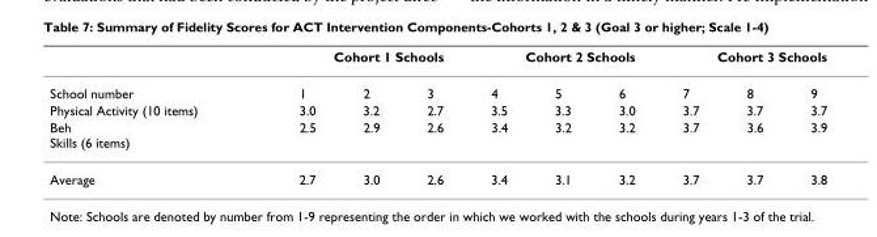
<table><thead><tr><td rowspan="2">School number</td><td colspan="3">Cohort 1 Schools</td><td colspan="3">Cohort 2 Schools</td><td colspan="3">Cohort 3 Schools</td></tr><tr><td>1</td><td>2</td><td>3</td><td>4</td><td>5</td><td>6</td><td>7</td><td>8</td><td>9</td></tr></thead><tbody><tr><td>Physical Activity (10 items)</td><td>3.0</td><td>3.2</td><td>2.7</td><td>3.5</td><td>3.3</td><td>3.0</td><td>3.7</td><td>3.7</td><td>3.7</td></tr><tr><td>Beh Skills (6 items)</td><td>2.5</td><td>2.9</td><td>2.6</td><td>3.4</td><td>3.2</td><td>3.2</td><td>3.7</td><td>3.6</td><td>3.9</td></tr><tr><td>Average</td><td>2.7</td><td>3.0</td><td>2.6</td><td>3.4</td><td>3.1</td><td>3.2</td><td>3.7</td><td>3.7</td><td>3.8</td></tr></tbody></table>